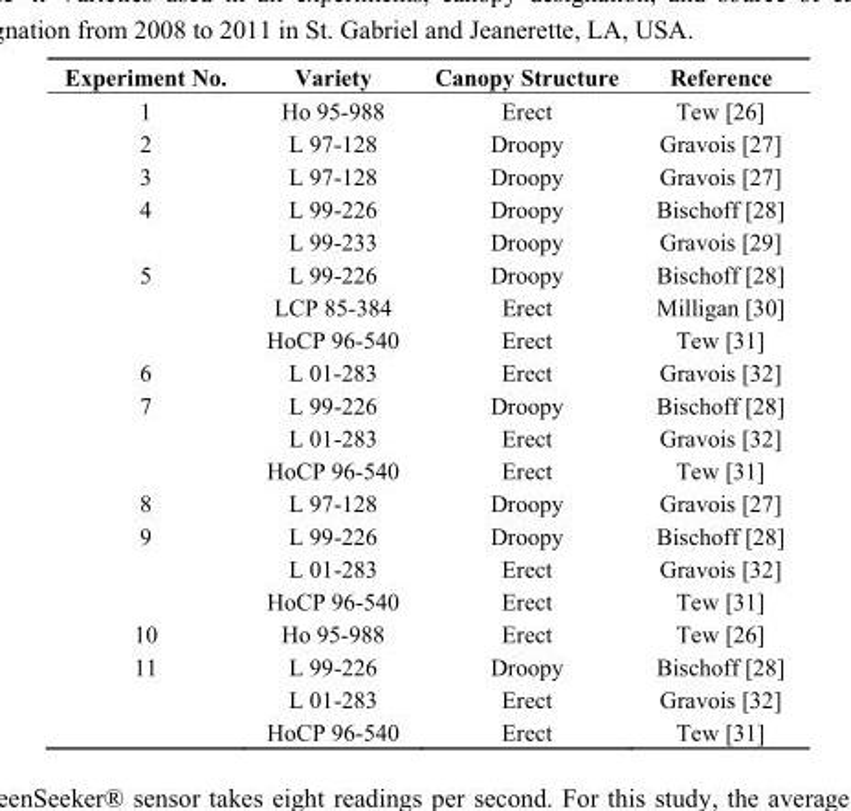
<table><thead><tr><td>Experiment No.</td><td>Variety</td><td>Canopy Structure</td><td>Reference</td></tr></thead><tbody><tr><td>1</td><td>Ho 95-988</td><td>Erect</td><td>Tew [26]</td></tr><tr><td>2</td><td>L 97-128</td><td>Droopy</td><td>Gravois [27]</td></tr><tr><td>3</td><td>L 97-128</td><td>Droopy</td><td>Gravois [27]</td></tr><tr><td rowspan="2">4</td><td>L 99-226</td><td>Droopy</td><td>Bischoff [28]</td></tr><tr><td>L 99-233</td><td>Droopy</td><td>Gravois [29]</td></tr><tr><td rowspan="3">5</td><td>L 99-226</td><td>Droopy</td><td>Bischoff [28]</td></tr><tr><td>LCP 85-384</td><td>Erect</td><td>Milligan [30]</td></tr><tr><td>HoCP 96-540</td><td>Erect</td><td>Tew [31]</td></tr><tr><td>6</td><td>L 01-283</td><td>Erect</td><td>Gravois [32]</td></tr><tr><td rowspan="3">7</td><td>L 99-226</td><td>Droopy</td><td>Bischoff [28]</td></tr><tr><td>L 01-283</td><td>Erect</td><td>Gravois [32]</td></tr><tr><td>HoCP 96-540</td><td>Erect</td><td>Tew [31]</td></tr><tr><td>8</td><td>L 97-128</td><td>Droopy</td><td>Gravois [27]</td></tr><tr><td rowspan="3">9</td><td>L 99-226</td><td>Droopy</td><td>Bischoff [28]</td></tr><tr><td>L 01-283</td><td>Erect</td><td>Gravois [32]</td></tr><tr><td>HoCP 96-540</td><td>Erect</td><td>Tew [31]</td></tr><tr><td>10</td><td>Ho 95-988</td><td>Erect</td><td>Tew [26]</td></tr><tr><td rowspan="3">11</td><td>L 99-226</td><td>Droopy</td><td>Bischoff [28]</td></tr><tr><td>L 01-283</td><td>Erect</td><td>Gravois [32]</td></tr><tr><td>HoCP 96-540</td><td>Erect</td><td>Tew [31]</td></tr></tbody></table>